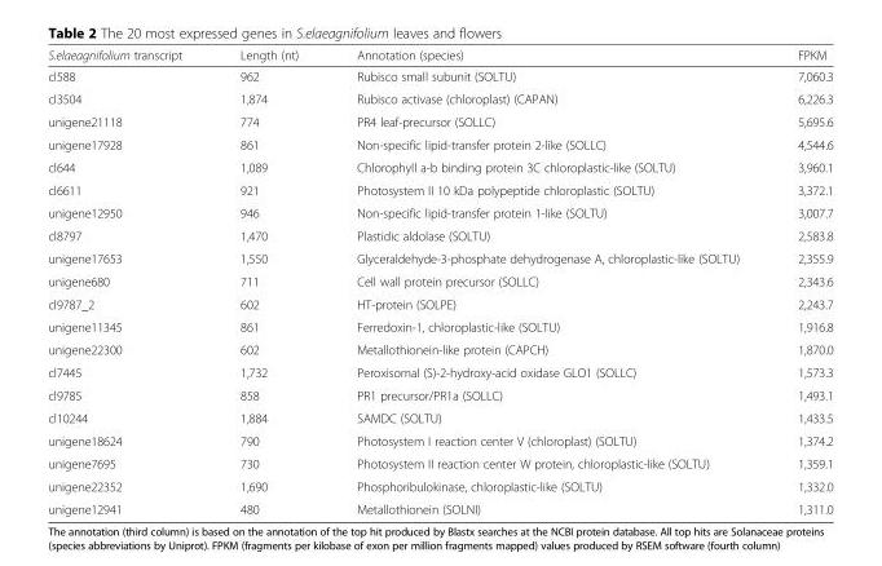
<table><thead><tr><td>S.elaeagnifolium transcript</td><td>Length (nt)</td><td>Annotation (species)</td><td>FPKM</td></tr></thead><tbody><tr><td>cl588</td><td>962</td><td>Rubisco small subunit (SOLTU)</td><td>7,060.3</td></tr><tr><td>cl3504</td><td>1,874</td><td>Rubisco activase (chloroplast) (CAPAN)</td><td>6,226.3</td></tr><tr><td>unigene21118</td><td>774</td><td>PR4 leaf-precursor (SOLLC)</td><td>5,695.6</td></tr><tr><td>unigene17928</td><td>861</td><td>Non-specific lipid-transfer protein 2-like (SOLLC)</td><td>4,544.6</td></tr><tr><td>cl644</td><td>1,089</td><td>Chlorophyll a-b binding protein 3C chloroplastic-like (SOLTU)</td><td>3,960.1</td></tr><tr><td>cl6611</td><td>921</td><td>Photosystem II 10 kDa polypeptide chloroplastic (SOLTU)</td><td>3,372.1</td></tr><tr><td>unigene12950</td><td>946</td><td>Non-specific lipid-transfer protein 1-like (SOLTU)</td><td>3,007.7</td></tr><tr><td>cl8797</td><td>1,470</td><td>Plastidic aldolase (SOLTU)</td><td>2,583.8</td></tr><tr><td>unigene17653</td><td>1,550</td><td>Glyceraldehyde-3-phosphate dehydrogenase A, chloroplastic-like (SOLTU)</td><td>2,355.9</td></tr><tr><td>unigene680</td><td>711</td><td>Cell wall protein precursor (SOLLC)</td><td>2,343.6</td></tr><tr><td>cl9787_2</td><td>602</td><td>HT-protein (SOLPE)</td><td>2,243.7</td></tr><tr><td>unigene11345</td><td>861</td><td>Ferredoxin-1, chloroplastic-like (SOLTU)</td><td>1,916.8</td></tr><tr><td>unigene22300</td><td>602</td><td>Metallothionein-like protein (CAPCH)</td><td>1,870.0</td></tr><tr><td>cl7445</td><td>1,732</td><td>Peroxisomal (S)-2-hydroxy-acid oxidase GLO1 (SOLLC)</td><td>1,573.3</td></tr><tr><td>cl9785</td><td>858</td><td>PR1 precursor/PR1a (SOLLC)</td><td>1,493.1</td></tr><tr><td>cl10244</td><td>1,884</td><td>SAMDC (SOLTU)</td><td>1,433.5</td></tr><tr><td>unigene18624</td><td>790</td><td>Photosystem I reaction center V (chloroplast) (SOLTU)</td><td>1,374.2</td></tr><tr><td>unigene7695</td><td>730</td><td>Photosystem II reaction center W protein, chloroplastic-like (SOLTU)</td><td>1,359.1</td></tr><tr><td>unigene22352</td><td>1,690</td><td>Phosphoribulokinase, chloroplastic-like (SOLTU)</td><td>1,332.0</td></tr><tr><td>unigene12941</td><td>480</td><td>Metallothionein (SOLNI)</td><td>1,311.0</td></tr></tbody></table>